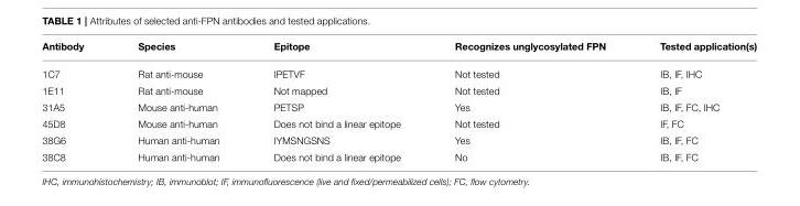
<table><thead><tr><td>Antibody</td><td>Species</td><td>Epitope</td><td>Recognizes unglycosylated FPN</td><td>Tested application(s)</td></tr></thead><tbody><tr><td>1C7</td><td>Rat anti-mouse</td><td>IPETVF</td><td>Not tested</td><td>IB, IF, IHC</td></tr><tr><td>1E11</td><td>Rat anti-mouse</td><td>Not mapped</td><td>Not tested</td><td>IB, IF</td></tr><tr><td>31A5</td><td>Mouse anti-human</td><td>PETSP</td><td>Yes</td><td>IB, IF, FC, IHC</td></tr><tr><td>45D8</td><td>Mouse anti-human</td><td>Does not bind a linear epitope</td><td>Not tested</td><td>IF, FC</td></tr><tr><td>38G6</td><td>Human anti-human</td><td>IYMSNGSNS</td><td>Yes</td><td>IB, IF, FC</td></tr><tr><td>38C8</td><td>Human anti-human</td><td>Does not bind a linear epitope</td><td>No</td><td>IB, IF, FC</td></tr></tbody></table>